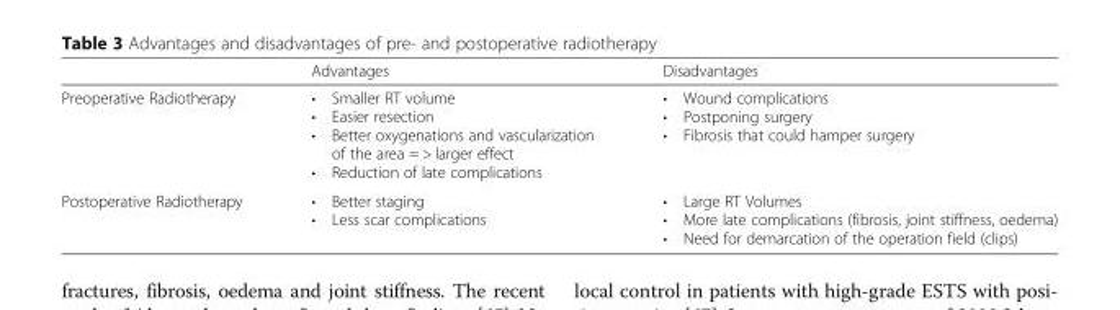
<table><thead><tr><td></td><td>Advantages</td><td>Disadvantages</td></tr></thead><tbody><tr><td>Preoperative Radiotherapy</td><td>• Smaller RT volume • Easier resection • Better oxygenations and vascularization of the area = &gt; larger effect • Reduction of late complications</td><td>• Wound complications • Postponing surgery • Fibrosis that could hamper surgery</td></tr><tr><td>Postoperative Radiotherapy</td><td>• Better staging • Less scar complications</td><td>• Large RT Volumes • More late complications (fibrosis, joint stiffness, oedema) • Need for demarcation of the operation field (clips)</td></tr></tbody></table>